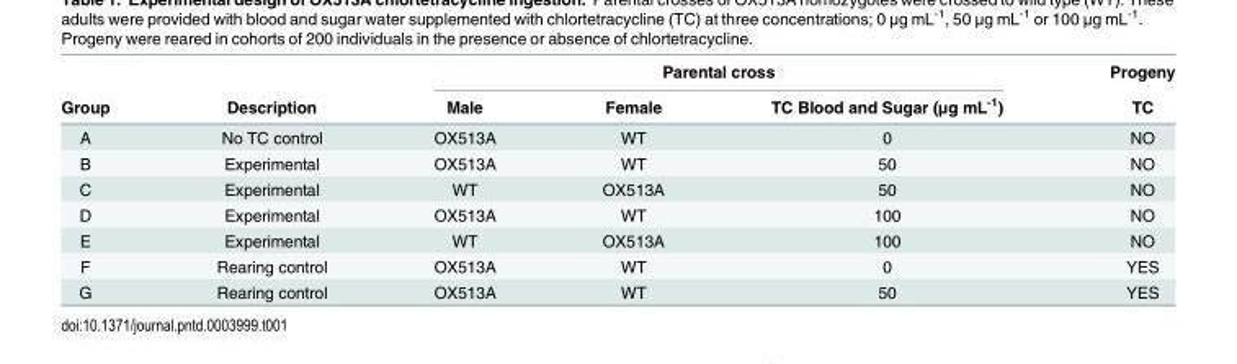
<table><thead><tr><td rowspan="2">Group</td><td rowspan="2">Description</td><td colspan="3">Parental cross</td><td rowspan="2">Progeny TC</td></tr><tr><td>Male</td><td>Female</td><td>TC Blood and Sugar (μg mL<sup>-1</sup>)</td></tr></thead><tbody><tr><td>A</td><td>No TC control</td><td>OX513A</td><td>WT</td><td>0</td><td>NO</td></tr><tr><td>B</td><td>Experimental</td><td>OX513A</td><td>WT</td><td>50</td><td>NO</td></tr><tr><td>C</td><td>Experimental</td><td>WT</td><td>OX513A</td><td>50</td><td>NO</td></tr><tr><td>D</td><td>Experimental</td><td>OX513A</td><td>WT</td><td>100</td><td>NO</td></tr><tr><td>E</td><td>Experimental</td><td>WT</td><td>OX513A</td><td>100</td><td>NO</td></tr><tr><td>F</td><td>Rearing control</td><td>OX513A</td><td>WT</td><td>0</td><td>YES</td></tr><tr><td>G</td><td>Rearing control</td><td>OX513A</td><td>WT</td><td>50</td><td>YES</td></tr></tbody></table>